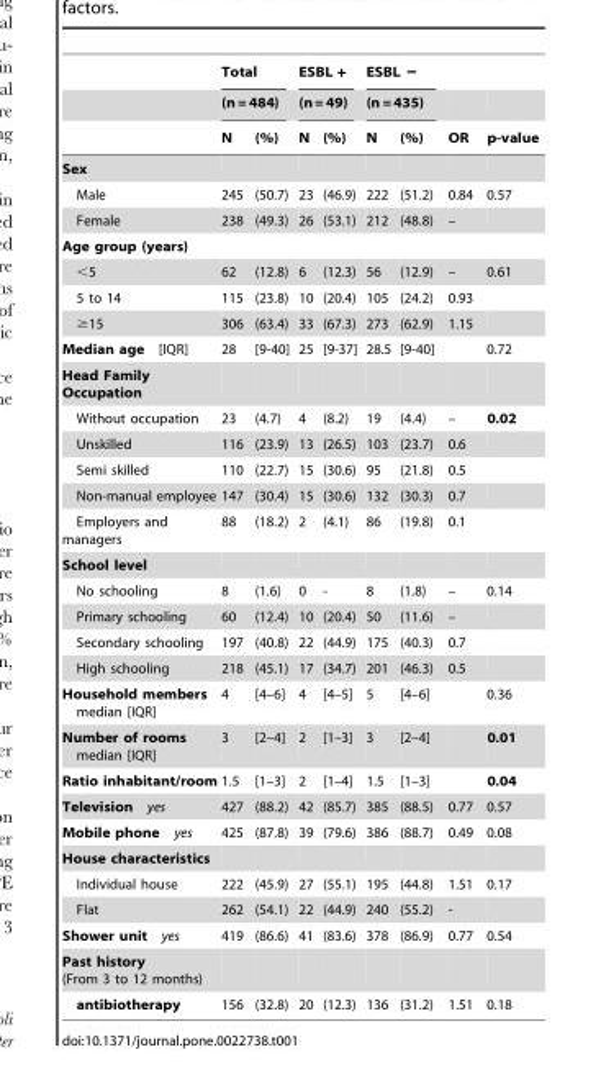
<table><thead><tr><td rowspan="3"></td><td rowspan="2" colspan="2">Total (n = 484)</td><td rowspan="2" colspan="2">ESBL + (n = 49)</td><td rowspan="2" colspan="2">ESBL − (n = 435)</td><td rowspan="3">OR</td><td rowspan="3">p-value</td></tr><tr></tr><tr><td>N</td><td>(%)</td><td>N</td><td>(%)</td><td>N</td><td>(%)</td></tr></thead><tbody><tr><td colspan="9">Sex</td></tr><tr><td>Male</td><td>245</td><td>(50.7)</td><td>23</td><td>(46.9)</td><td>222</td><td>(51.2)</td><td>0.84</td><td>0.57</td></tr><tr><td>Female</td><td>238</td><td>(49.3)</td><td>26</td><td>(53.1)</td><td>212</td><td>(48.8)</td><td>–</td><td></td></tr><tr><td colspan="9">Age group (years)</td></tr><tr><td>&lt;5</td><td>62</td><td>(12.8)</td><td>6</td><td>(12.3)</td><td>56</td><td>(12.9)</td><td>–</td><td>0.61</td></tr><tr><td>5 to 14</td><td>115</td><td>(23.8)</td><td>10</td><td>(20.4)</td><td>105</td><td>(24.2)</td><td>0.93</td><td></td></tr><tr><td>≥15</td><td>306</td><td>(63.4)</td><td>33</td><td>(67.3)</td><td>273</td><td>(62.9)</td><td>1.15</td><td></td></tr><tr><td>Median age [IQR]</td><td>28</td><td>[9-40]</td><td>25</td><td>[9-37]</td><td>28.5</td><td>[9-40]</td><td></td><td>0.72</td></tr><tr><td colspan="9">Head Family Occupation</td></tr><tr><td>Without occupation</td><td>23</td><td>(4.7)</td><td>4</td><td>(8.2)</td><td>19</td><td>(4.4)</td><td>–</td><td>0.02</td></tr><tr><td>Unskilled</td><td>116</td><td>(23.9)</td><td>13</td><td>(26.5)</td><td>103</td><td>(23.7)</td><td>0.6</td><td></td></tr><tr><td>Semi skilled</td><td>110</td><td>(22.7)</td><td>15</td><td>(30.6)</td><td>95</td><td>(21.8)</td><td>0.5</td><td></td></tr><tr><td>Non-manual employee</td><td>147</td><td>(30.4)</td><td>15</td><td>(30.6)</td><td>132</td><td>(30.3)</td><td>0.7</td><td></td></tr><tr><td>Employers and managers</td><td>88</td><td>(18.2)</td><td>2</td><td>(4.1)</td><td>86</td><td>(19.8)</td><td>0.1</td><td></td></tr><tr><td colspan="9">School level</td></tr><tr><td>No schooling</td><td>8</td><td>(1.6)</td><td>0</td><td>-</td><td>8</td><td>(1.8)</td><td>–</td><td>0.14</td></tr><tr><td>Primary schooling</td><td>60</td><td>(12.4)</td><td>10</td><td>(20.4)</td><td>50</td><td>(11.6)</td><td>–</td><td></td></tr><tr><td>Secondary schooling</td><td>197</td><td>(40.8)</td><td>22</td><td>(44.9)</td><td>175</td><td>(40.3)</td><td>0.7</td><td></td></tr><tr><td>High schooling</td><td>218</td><td>(45.1)</td><td>17</td><td>(34.7)</td><td>201</td><td>(46.3)</td><td>0.5</td><td></td></tr><tr><td>Household members median [IQR]</td><td>4</td><td>[4–6]</td><td>4</td><td>[4–5]</td><td>5</td><td>[4–6]</td><td></td><td>0.36</td></tr><tr><td>Number of rooms median [IQR]</td><td>3</td><td>[2–4]</td><td>2</td><td>[1–3]</td><td>3</td><td>[2–4]</td><td></td><td>0.01</td></tr><tr><td>Ratio inhabitant/room</td><td>1.5</td><td>[1–3]</td><td>2</td><td>[1–4]</td><td>1.5</td><td>[1–3]</td><td></td><td>0.04</td></tr><tr><td>Television yes</td><td>427</td><td>(88.2)</td><td>42</td><td>(85.7)</td><td>385</td><td>(88.5)</td><td>0.77</td><td>0.57</td></tr><tr><td>Mobile phone yes</td><td>425</td><td>(87.8)</td><td>39</td><td>(79.6)</td><td>386</td><td>(88.7)</td><td>0.49</td><td>0.08</td></tr><tr><td colspan="9">House characteristics</td></tr><tr><td>Individual house</td><td>222</td><td>(45.9)</td><td>27</td><td>(55.1)</td><td>195</td><td>(44.8)</td><td>1.51</td><td>0.17</td></tr><tr><td>Flat</td><td>262</td><td>(54.1)</td><td>22</td><td>(44.9)</td><td>240</td><td>(55.2)</td><td>-</td><td></td></tr><tr><td>Shower unit yes</td><td>419</td><td>(86.6)</td><td>41</td><td>(83.6)</td><td>378</td><td>(86.9)</td><td>0.77</td><td>0.54</td></tr><tr><td colspan="9">Past history (From 3 to 12 months)</td></tr><tr><td>antibiotherapy</td><td>156</td><td>(32.8)</td><td>20</td><td>(12.3)</td><td>136</td><td>(31.2)</td><td>1.51</td><td>0.18</td></tr></tbody></table>